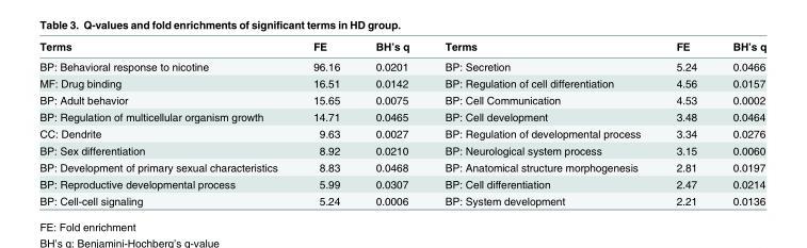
<table><thead><tr><td>Terms</td><td>FE</td><td>BH’s q</td><td>Terms</td><td>FE</td><td>BH’s q</td></tr></thead><tbody><tr><td>BP: Behavioral response to nicotine</td><td>96.16</td><td>0.0201</td><td>BP: Secretion</td><td>5.24</td><td>0.0466</td></tr><tr><td>MF: Drug binding</td><td>16.51</td><td>0.0142</td><td>BP: Regulation of cell differentiation</td><td>4.56</td><td>0.0157</td></tr><tr><td>BP: Adult behavior</td><td>15.65</td><td>0.0075</td><td>BP: Cell Communication</td><td>4.53</td><td>0.0002</td></tr><tr><td>BP: Regulation of multicellular organism growth</td><td>14.71</td><td>0.0465</td><td>BP: Cell development</td><td>3.48</td><td>0.0464</td></tr><tr><td>CC: Dendrite</td><td>9.63</td><td>0.0027</td><td>BP: Regulation of developmental process</td><td>3.34</td><td>0.0276</td></tr><tr><td>BP: Sex differentiation</td><td>8.92</td><td>0.0210</td><td>BP: Neurological system process</td><td>3.15</td><td>0.0060</td></tr><tr><td>BP: Development of primary sexual characteristics</td><td>8.83</td><td>0.0468</td><td>BP: Anatomical structure morphogenesis</td><td>2.81</td><td>0.0197</td></tr><tr><td>BP: Reproductive developmental process</td><td>5.99</td><td>0.0307</td><td>BP: Cell differentiation</td><td>2.47</td><td>0.0214</td></tr><tr><td>BP: Cell-cell signaling</td><td>5.24</td><td>0.0006</td><td>BP: System development</td><td>2.21</td><td>0.0136</td></tr></tbody></table>